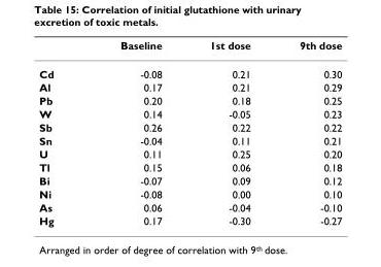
<table><thead><tr><td></td><td>Baseline</td><td>1st dose</td><td>9th dose</td></tr></thead><tbody><tr><td>Cd</td><td>-0.08</td><td>0.21</td><td>0.30</td></tr><tr><td>Al</td><td>0.17</td><td>0.21</td><td>0.29</td></tr><tr><td>Pb</td><td>0.20</td><td>0.18</td><td>0.25</td></tr><tr><td>W</td><td>0.14</td><td>-0.05</td><td>0.23</td></tr><tr><td>Sb</td><td>0.26</td><td>0.22</td><td>0.22</td></tr><tr><td>Sn</td><td>-0.04</td><td>0.11</td><td>0.21</td></tr><tr><td>U</td><td>0.11</td><td>0.25</td><td>0.20</td></tr><tr><td>Tl</td><td>0.15</td><td>0.06</td><td>0.18</td></tr><tr><td>Bi</td><td>-0.07</td><td>0.09</td><td>0.12</td></tr><tr><td>Ni</td><td>-0.08</td><td>0.00</td><td>0.10</td></tr><tr><td>As</td><td>0.06</td><td>-0.04</td><td>-0.10</td></tr><tr><td>Hg</td><td>0.17</td><td>-0.30</td><td>-0.27</td></tr></tbody></table>